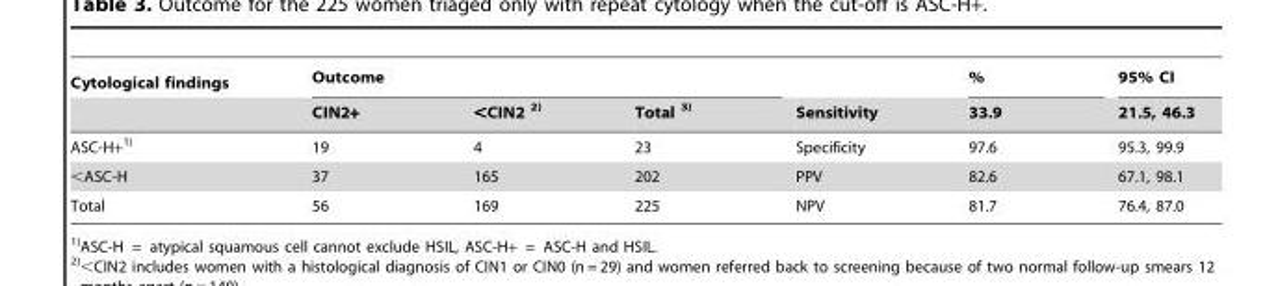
<table><thead><tr><td rowspan="2">Cytological findings</td><td colspan="3">Outcome</td><td rowspan="2">Sensitivity</td><td rowspan="2">% 33.9</td><td rowspan="2">95% CI 21.5, 46.3</td></tr><tr><td>CIN2+</td><td>&lt;CIN2 2)</td><td>Total 3)</td></tr></thead><tbody><tr><td>ASC-H+1)</td><td>19</td><td>4</td><td>23</td><td>Specificity</td><td>97.6</td><td>95.3, 99.9</td></tr><tr><td>&lt;ASC-H</td><td>37</td><td>165</td><td>202</td><td>PPV</td><td>82.6</td><td>67.1, 98.1</td></tr><tr><td>Total</td><td>56</td><td>169</td><td>225</td><td>NPV</td><td>81.7</td><td>76.4, 87.0</td></tr></tbody></table>